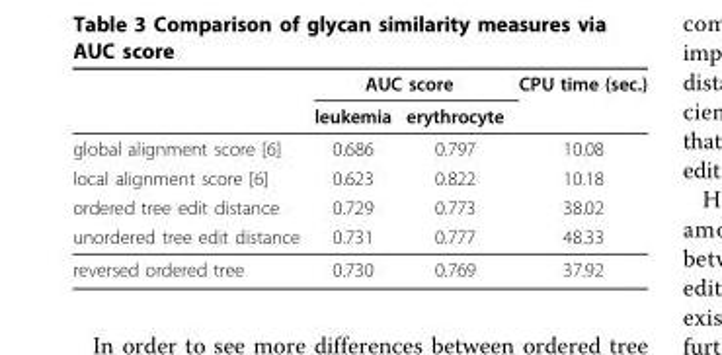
<table><thead><tr><td rowspan="2"></td><td colspan="2">AUC score</td><td rowspan="2">CPU time (sec.)</td></tr><tr><td>leukemia</td><td>erythrocyte</td></tr></thead><tbody><tr><td>global alignment score [6]</td><td>0.686</td><td>0.797</td><td>10.08</td></tr><tr><td>local alignment score [6]</td><td>0.623</td><td>0.822</td><td>10.18</td></tr><tr><td>ordered tree edit distance</td><td>0.729</td><td>0.773</td><td>38.02</td></tr><tr><td>unordered tree edit distance</td><td>0.731</td><td>0.777</td><td>48.33</td></tr><tr><td>reversed ordered tree</td><td>0.730</td><td>0.769</td><td>37.92</td></tr></tbody></table>